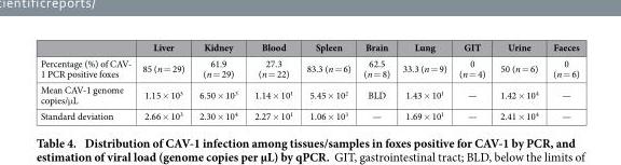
<table><thead><tr><td></td><td>Liver</td><td>Kidney</td><td>Blood</td><td>Spleen</td><td>Brain</td><td>Lung</td><td>GIT</td><td>Urine</td><td>Faeces</td></tr></thead><tbody><tr><td>Percentage (%) of CAV- 1 PCR positive foxes</td><td>85 (n = 29)</td><td>61.9 (n = 29)</td><td>27.3 (n = 22)</td><td>83.3 (n = 6)</td><td>62.5 (n = 8)</td><td>33.3 (n = 9)</td><td>0 (n = 4)</td><td>50 (n = 6)</td><td>0 (n = 6)</td></tr><tr><td>Mean CAV-1 genome copies/μ L</td><td>1.15 × 10<sup>3</sup></td><td>6.50 × 10<sup>3</sup></td><td>1.14 × 10<sup>1</sup></td><td>5.45 × 10<sup>2</sup></td><td>BLD</td><td>1.43 × 10<sup>1</sup></td><td>—</td><td>1.42 × 10<sup>4</sup></td><td>—</td></tr><tr><td>Standard deviation</td><td>2.66 × 10<sup>3</sup></td><td>2.30 × 10<sup>4</sup></td><td>2.27 × 10<sup>1</sup></td><td>1.06 × 10<sup>3</sup></td><td>—</td><td>1.69 × 10<sup>1</sup></td><td>—</td><td>2.41 × 10<sup>4</sup></td><td>—</td></tr></tbody></table>